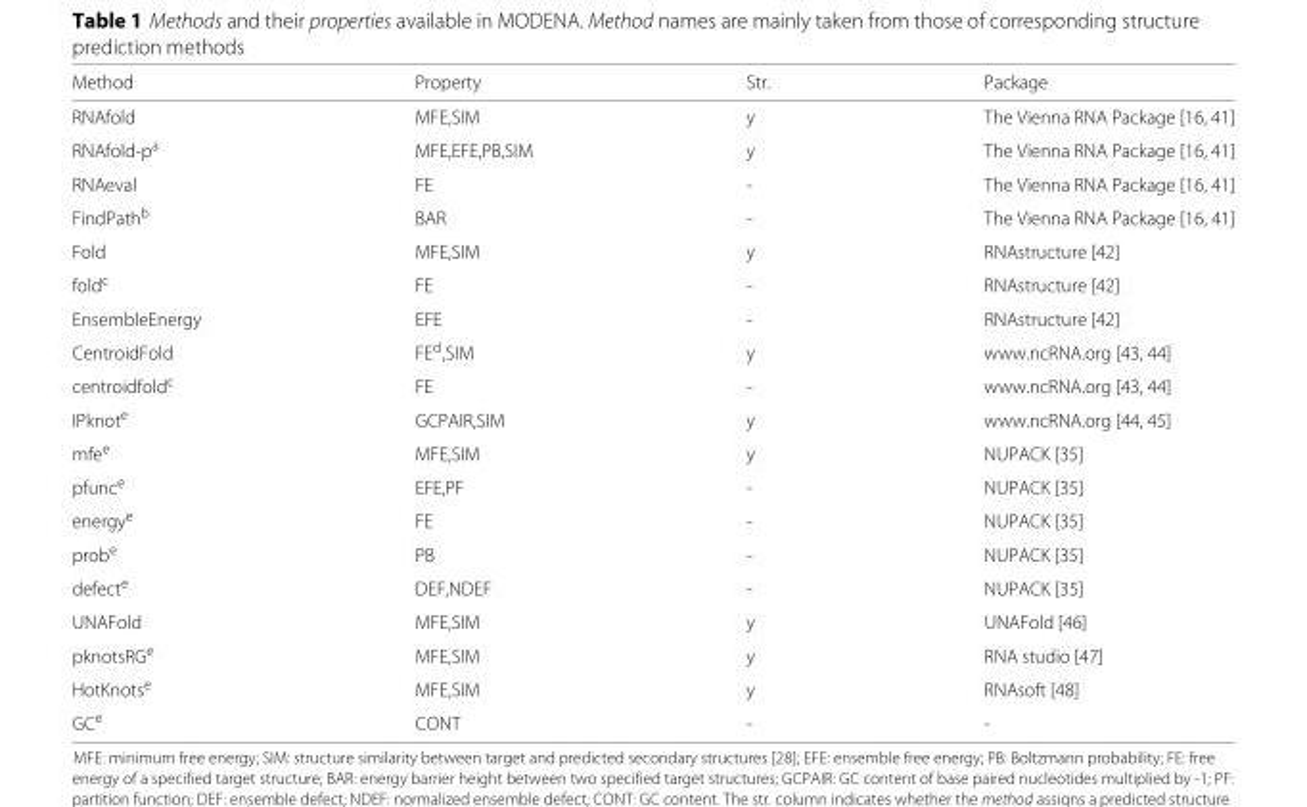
<table><thead><tr><td>Method</td><td>Property</td><td>Str.</td><td>Package</td></tr></thead><tbody><tr><td>RNAfold</td><td>MFE,SIM</td><td>y</td><td>The Vienna RNA Package [16, 41]</td></tr><tr><td>RNAfold-p<sup>a</sup></td><td>MFE,EFE,PB,SIM</td><td>y</td><td>The Vienna RNA Package [16, 41]</td></tr><tr><td>RNAeval</td><td>FE</td><td>-</td><td>The Vienna RNA Package [16, 41]</td></tr><tr><td>FindPath<sup>b</sup></td><td>BAR</td><td>-</td><td>The Vienna RNA Package [16, 41]</td></tr><tr><td>Fold</td><td>MFE,SIM</td><td>y</td><td>RNAstructure [42]</td></tr><tr><td>fold<sup>c</sup></td><td>FE</td><td>-</td><td>RNAstructure [42]</td></tr><tr><td>EnsembleEnergy</td><td>EFE</td><td>-</td><td>RNAstructure [42]</td></tr><tr><td>CentroidFold</td><td>FE<sup>d</sup>,SIM</td><td>y</td><td>www.ncRNA.org [43, 44]</td></tr><tr><td>centroidfold<sup>c</sup></td><td>FE</td><td>-</td><td>www.ncRNA.org [43, 44]</td></tr><tr><td>IPknot<sup>e</sup></td><td>GCPAIR,SIM</td><td>y</td><td>www.ncRNA.org [44, 45]</td></tr><tr><td>mfe<sup>e</sup></td><td>MFE,SIM</td><td>y</td><td>NUPACK [35]</td></tr><tr><td>pfunc<sup>e</sup></td><td>EFE,PF</td><td>-</td><td>NUPACK [35]</td></tr><tr><td>energy<sup>e</sup></td><td>FE</td><td>-</td><td>NUPACK [35]</td></tr><tr><td>prob<sup>e</sup></td><td>PB</td><td>-</td><td>NUPACK [35]</td></tr><tr><td>defect<sup>e</sup></td><td>DEF,NDEF</td><td>-</td><td>NUPACK [35]</td></tr><tr><td>UNAFold</td><td>MFE,SIM</td><td>y</td><td>UNAFold [46]</td></tr><tr><td>pknotsRG<sup>e</sup></td><td>MFE,SIM</td><td>y</td><td>RNA studio [47]</td></tr><tr><td>HotKnots<sup>e</sup></td><td>MFE,SIM</td><td>y</td><td>RNAsoft [48]</td></tr><tr><td>GC<sup>e</sup></td><td>CONT</td><td>-</td><td>-</td></tr></tbody></table>